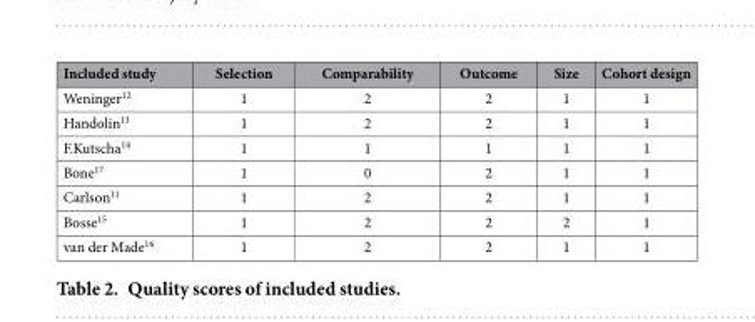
<table><thead><tr><td>Included study</td><td>Selection</td><td>Comparability</td><td>Outcome</td><td>Size</td><td>Cohort design</td></tr></thead><tbody><tr><td>Weninger<sup>12</sup></td><td>1</td><td>2</td><td>2</td><td>1</td><td>1</td></tr><tr><td>Handolin<sup>13</sup></td><td>1</td><td>2</td><td>2</td><td>1</td><td>1</td></tr><tr><td>F.Kutscha<sup>14</sup></td><td>1</td><td>1</td><td>1</td><td>1</td><td>1</td></tr><tr><td>Bone<sup>17</sup></td><td>1</td><td>0</td><td>2</td><td>1</td><td>1</td></tr><tr><td>Carlson<sup>11</sup></td><td>1</td><td>2</td><td>2</td><td>1</td><td>1</td></tr><tr><td>Bosse<sup>15</sup></td><td>1</td><td>2</td><td>2</td><td>2</td><td>1</td></tr><tr><td>van der Made<sup>16</sup></td><td>1</td><td>2</td><td>2</td><td>1</td><td>1</td></tr></tbody></table>